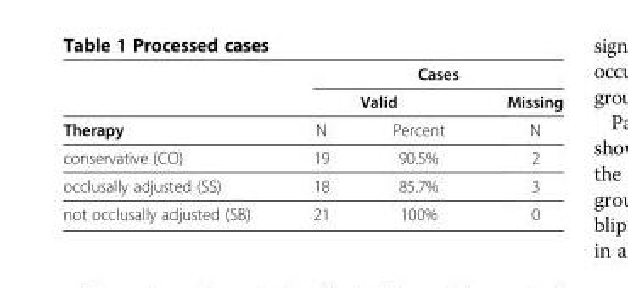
<table><thead><tr><td rowspan="3">Therapy</td><td colspan="3">Cases</td></tr><tr><td colspan="2">Valid</td><td rowspan="2">Missing N</td></tr><tr><td>N</td><td>Percent</td></tr></thead><tbody><tr><td>conservative (CO)</td><td>19</td><td>90.5%</td><td>2</td></tr><tr><td>occlusally adjusted (SS)</td><td>18</td><td>85.7%</td><td>3</td></tr><tr><td>not occlusally adjusted (SB)</td><td>21</td><td>100%</td><td>0</td></tr></tbody></table>